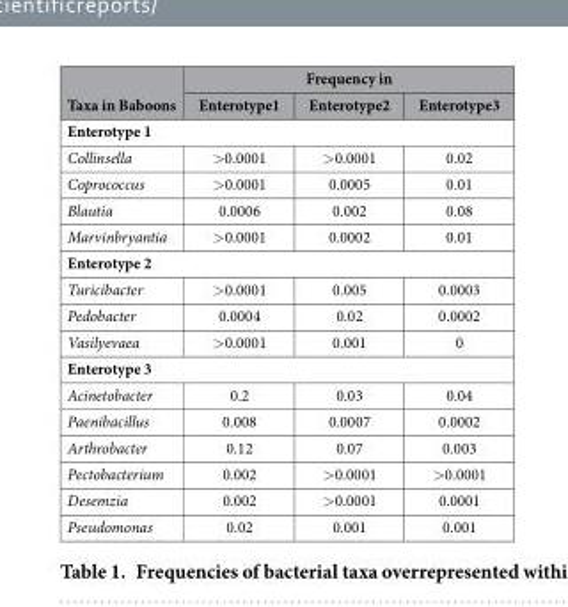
<table><thead><tr><td rowspan="2">Taxa in Baboons</td><td colspan="3">Frequency in</td></tr><tr><td>Enterotype1</td><td>Enterotype2</td><td>Enterotype3</td></tr></thead><tbody><tr><td colspan="4">Enterotype 1</td></tr><tr><td>Collinsella</td><td>&gt; 0.0001</td><td>&gt; 0.0001</td><td>0.02</td></tr><tr><td>Coprococcus</td><td>&gt; 0.0001</td><td>0.0005</td><td>0.01</td></tr><tr><td>Blautia</td><td>0.0006</td><td>0.002</td><td>0.08</td></tr><tr><td>Marvinbryantia</td><td>&gt; 0.0001</td><td>0.0002</td><td>0.01</td></tr><tr><td colspan="4">Enterotype 2</td></tr><tr><td>Turicibacter</td><td>&gt; 0.0001</td><td>0.005</td><td>0.0003</td></tr><tr><td>Pedobacter</td><td>0.0004</td><td>0.02</td><td>0.0002</td></tr><tr><td>Vasilyevaea</td><td>&gt; 0.0001</td><td>0.001</td><td>0</td></tr><tr><td colspan="4">Enterotype 3</td></tr><tr><td>Acinetobacter</td><td>0.2</td><td>0.03</td><td>0.04</td></tr><tr><td>Paenibacillus</td><td>0.008</td><td>0.0007</td><td>0.0002</td></tr><tr><td>Arthrobacter</td><td>0.12</td><td>0.07</td><td>0.003</td></tr><tr><td>Pectobacterium</td><td>0.002</td><td>&gt; 0.0001</td><td>&gt; 0.0001</td></tr><tr><td>Desemzia</td><td>0.002</td><td>&gt; 0.0001</td><td>0.0001</td></tr><tr><td>Pseudomonas</td><td>0.02</td><td>0.001</td><td>0.001</td></tr></tbody></table>